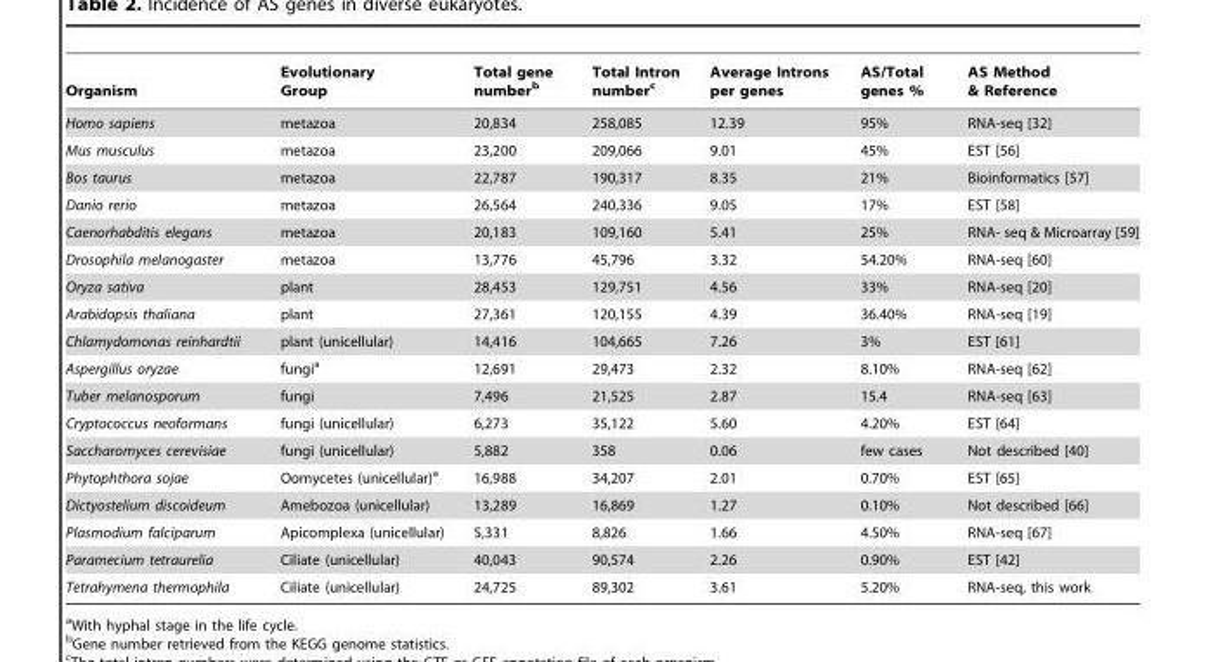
<table><thead><tr><td>Organism</td><td>Evolutionary Group</td><td>Total gene number<sup>b</sup></td><td>Total Intron number<sup>c</sup></td><td>Average Introns per genes</td><td>AS/Total genes %</td><td>AS Method &amp; Reference</td></tr></thead><tbody><tr><td>Homo sapiens</td><td>metazoa</td><td>20,834</td><td>258,085</td><td>12.39</td><td>95%</td><td>RNA-seq [32]</td></tr><tr><td>Mus musculus</td><td>metazoa</td><td>23,200</td><td>209,066</td><td>9.01</td><td>45%</td><td>EST [56]</td></tr><tr><td>Bos taurus</td><td>metazoa</td><td>22,787</td><td>190,317</td><td>8.35</td><td>21%</td><td>Bioinformatics [57]</td></tr><tr><td>Danio rerio</td><td>metazoa</td><td>26,564</td><td>240,336</td><td>9.05</td><td>17%</td><td>EST [58]</td></tr><tr><td>Caenorhabditis elegans</td><td>metazoa</td><td>20,183</td><td>109,160</td><td>5.41</td><td>25%</td><td>RNA- seq &amp; Microarray [59]</td></tr><tr><td>Drosophila melanogaster</td><td>metazoa</td><td>13,776</td><td>45,796</td><td>3.32</td><td>54.20%</td><td>RNA-seq [60]</td></tr><tr><td>Oryza sativa</td><td>plant</td><td>28,453</td><td>129,751</td><td>4.56</td><td>33%</td><td>RNA-seq [20]</td></tr><tr><td>Arabidopsis thaliana</td><td>plant</td><td>27,361</td><td>120,155</td><td>4.39</td><td>36.40%</td><td>RNA-seq [19]</td></tr><tr><td>Chlamydomonas reinhardtii</td><td>plant (unicellular)</td><td>14,416</td><td>104,665</td><td>7.26</td><td>3%</td><td>EST [61]</td></tr><tr><td>Aspergillus oryzae</td><td>fungi<sup>a</sup></td><td>12,691</td><td>29,473</td><td>2.32</td><td>8.10%</td><td>RNA-seq [62]</td></tr><tr><td>Tuber melanosporum</td><td>fungi</td><td>7,496</td><td>21,525</td><td>2.87</td><td>15.4</td><td>RNA-seq [63]</td></tr><tr><td>Cryptococcus neoformans</td><td>fungi (unicellular)</td><td>6,273</td><td>35,122</td><td>5.60</td><td>4.20%</td><td>EST [64]</td></tr><tr><td>Saccharomyces cerevisiae</td><td>fungi (unicellular)</td><td>5,882</td><td>358</td><td>0.06</td><td>few cases</td><td>Not described [40]</td></tr><tr><td>Phytophthora sojae</td><td>Oomycetes (unicellular)<sup>a</sup></td><td>16,988</td><td>34,207</td><td>2.01</td><td>0.70%</td><td>EST [65]</td></tr><tr><td>Dictyostelium discoideum</td><td>Amebozoa (unicellular)</td><td>13,289</td><td>16,869</td><td>1.27</td><td>0.10%</td><td>Not described [66]</td></tr><tr><td>Plasmodium falciparum</td><td>Apicomplexa (unicellular)</td><td>5,331</td><td>8,826</td><td>1.66</td><td>4.50%</td><td>RNA-seq [67]</td></tr><tr><td>Paramecium tetraurelia</td><td>Ciliate (unicellular)</td><td>40,043</td><td>90,574</td><td>2.26</td><td>0.90%</td><td>EST [42]</td></tr><tr><td>Tetrahymena thermophila</td><td>Ciliate (unicellular)</td><td>24,725</td><td>89,302</td><td>3.61</td><td>5.20%</td><td>RNA-seq, this work</td></tr></tbody></table>